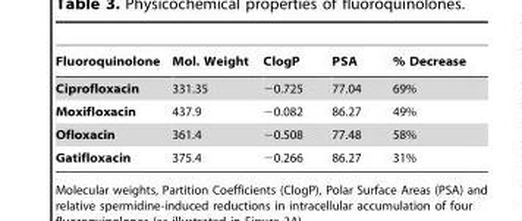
<table><thead><tr><td>Fluoroquinolone</td><td>Mol. Weight</td><td>ClogP</td><td>PSA</td><td>% Decrease</td></tr></thead><tbody><tr><td>Ciprofloxacin</td><td>331.35</td><td>−0.725</td><td>77.04</td><td>69%</td></tr><tr><td>Moxifloxacin</td><td>437.9</td><td>−0.082</td><td>86.27</td><td>49%</td></tr><tr><td>Ofloxacin</td><td>361.4</td><td>−0.508</td><td>77.48</td><td>58%</td></tr><tr><td>Gatifloxacin</td><td>375.4</td><td>−0.266</td><td>86.27</td><td>31%</td></tr></tbody></table>